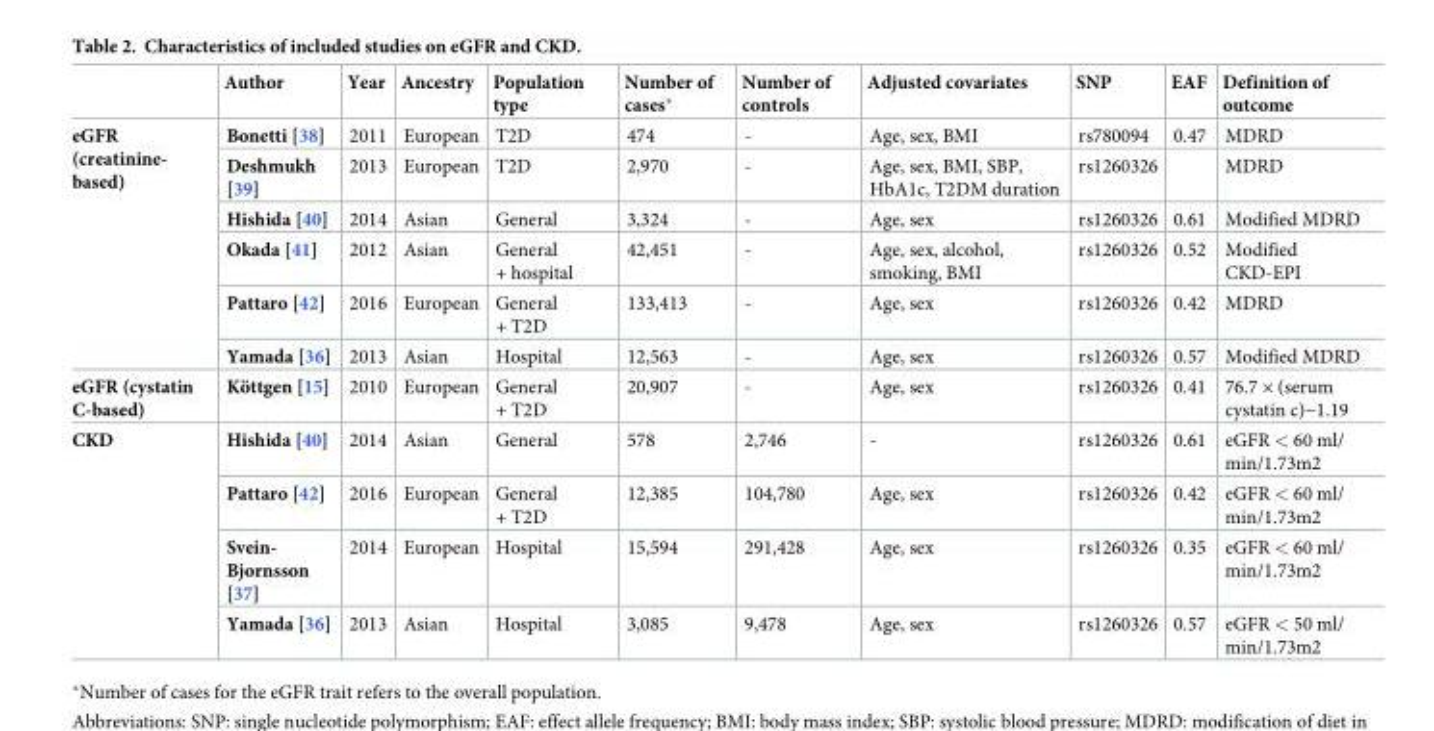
<table><thead><tr><td></td><td>Author</td><td>Year</td><td>Ancestry</td><td>Population type</td><td>Number of cases*</td><td>Number of controls</td><td>Adjusted covariates</td><td>SNP</td><td>EAF</td><td>Definition of outcome</td></tr></thead><tbody><tr><td rowspan="6">eGFR (creatinine- based)</td><td>Bonetti [38]</td><td>2011</td><td>European</td><td>T2D</td><td>474</td><td>-</td><td>Age, sex, BMI</td><td>rs780094</td><td>0.47</td><td>MDRD</td></tr><tr><td>Deshmukh [39]</td><td>2013</td><td>European</td><td>T2D</td><td>2,970</td><td>-</td><td>Age, sex, BMI, SBP, HbA1c, T2DM duration</td><td>rs1260326</td><td></td><td>MDRD</td></tr><tr><td>Hishida [40]</td><td>2014</td><td>Asian</td><td>General</td><td>3,324</td><td>-</td><td>Age, sex</td><td>rs1260326</td><td>0.61</td><td>Modified MDRD</td></tr><tr><td>Okada [41]</td><td>2012</td><td>Asian</td><td>General + hospital</td><td>42,451</td><td>-</td><td>Age, sex, alcohol, smoking, BMI</td><td>rs1260326</td><td>0.52</td><td>Modified CKD-EPI</td></tr><tr><td>Pattaro [42]</td><td>2016</td><td>European</td><td>General + T2D</td><td>133,413</td><td>-</td><td>Age, sex</td><td>rs1260326</td><td>0.42</td><td>MDRD</td></tr><tr><td>Yamada [36]</td><td>2013</td><td>Asian</td><td>Hospital</td><td>12,563</td><td>-</td><td>Age, sex</td><td>rs1260326</td><td>0.57</td><td>Modified MDRD</td></tr><tr><td>eGFR (cystatin C-based)</td><td>Ko¨ttgen [15]</td><td>2010</td><td>European</td><td>General + T2D</td><td>20,907</td><td>-</td><td>Age, sex</td><td>rs1260326</td><td>0.41</td><td>76.7 × (serum cystatin c)−1.19</td></tr><tr><td rowspan="4">CKD</td><td>Hishida [40]</td><td>2014</td><td>Asian</td><td>General</td><td>578</td><td>2,746</td><td>-</td><td>rs1260326</td><td>0.61</td><td>eGFR &lt; 60 ml/ min/1.73m2</td></tr><tr><td>Pattaro [42]</td><td>2016</td><td>European</td><td>General + T2D</td><td>12,385</td><td>104,780</td><td>Age, sex</td><td>rs1260326</td><td>0.42</td><td>eGFR &lt; 60 ml/ min/1.73m2</td></tr><tr><td>Svein- Bjornsson [37]</td><td>2014</td><td>European</td><td>Hospital</td><td>15,594</td><td>291,428</td><td>Age, sex</td><td>rs1260326</td><td>0.35</td><td>eGFR &lt; 60 ml/ min/1.73m2</td></tr><tr><td>Yamada [36]</td><td>2013</td><td>Asian</td><td>Hospital</td><td>3,085</td><td>9,478</td><td>Age, sex</td><td>rs1260326</td><td>0.57</td><td>eGFR &lt; 50 ml/ min/1.73m2</td></tr></tbody></table>